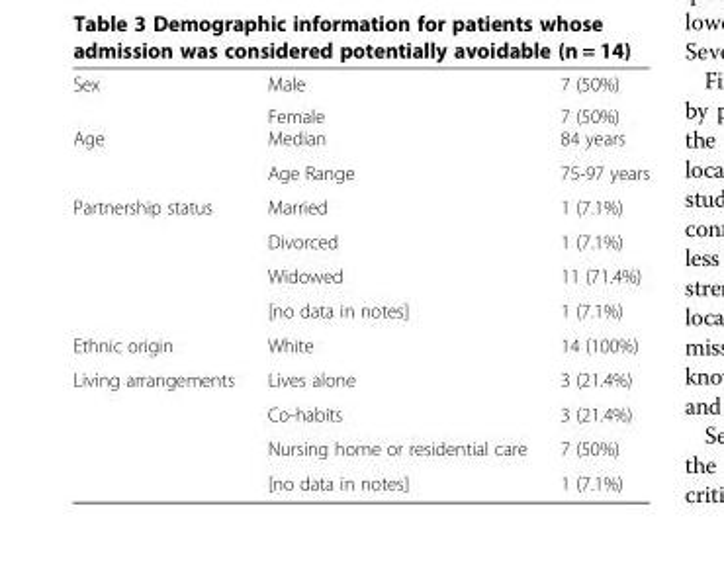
<table><tbody><tr><td rowspan="2">Sex</td><td>Male</td><td>7 (50%)</td></tr><tr><td>Female</td><td>7 (50%)</td></tr><tr><td rowspan="2">Age</td><td>Median</td><td>84 years</td></tr><tr><td>Age Range</td><td>75-97 years</td></tr><tr><td rowspan="4">Partnership status</td><td>Married</td><td>1 (7.1%)</td></tr><tr><td>Divorced</td><td>1 (7.1%)</td></tr><tr><td>Widowed</td><td>11 (71.4%)</td></tr><tr><td>[no data in notes]</td><td>1 (7.1%)</td></tr><tr><td>Ethnic origin</td><td>White</td><td>14 (100%)</td></tr><tr><td rowspan="4">Living arrangements</td><td>Lives alone</td><td>3 (21.4%)</td></tr><tr><td>Co-habits</td><td>3 (21.4%)</td></tr><tr><td>Nursing home or residential care</td><td>7 (50%)</td></tr><tr><td>[no data in notes]</td><td>1 (7.1%)</td></tr></tbody></table>